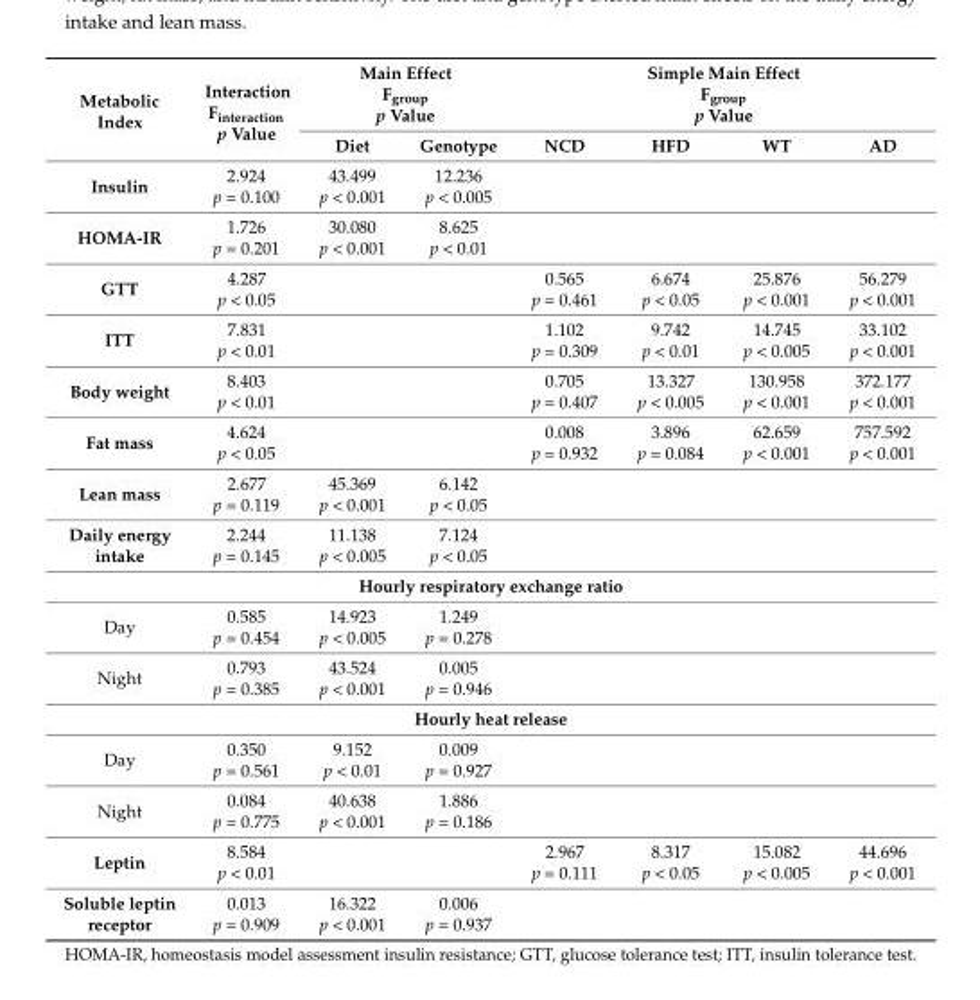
<table><thead><tr><td rowspan="2">Metabolic Index</td><td rowspan="2">Interaction F<sub>interaction</sub> p Value</td><td colspan="2">Main Effect F<sub>group</sub> p Value</td><td colspan="4">Simple Main Effect F<sub>group</sub> p Value</td></tr><tr><td>Diet</td><td>Genotype</td><td>NCD</td><td>HFD</td><td>WT</td><td>AD</td></tr></thead><tbody><tr><td>Insulin</td><td>2.924 p = 0.100</td><td>43.499 p &lt; 0.001</td><td>12.236 p &lt; 0.005</td><td></td><td></td><td></td><td></td></tr><tr><td>HOMA-IR</td><td>1.726 p = 0.201</td><td>30.080 p &lt; 0.001</td><td>8.625 p &lt; 0.01</td><td></td><td></td><td></td><td></td></tr><tr><td>GTT</td><td>4.287 p &lt; 0.05</td><td></td><td></td><td>0.565 p = 0.461</td><td>6.674 p &lt; 0.05</td><td>25.876 p &lt; 0.001</td><td>56.279 p &lt; 0.001</td></tr><tr><td>ITT</td><td>7.831 p &lt; 0.01</td><td></td><td></td><td>1.102 p = 0.309</td><td>9.742 p &lt; 0.01</td><td>14.745 p &lt; 0.005</td><td>33.102 p &lt; 0.001</td></tr><tr><td>Body weight</td><td>8.403 p &lt; 0.01</td><td></td><td></td><td>0.705 p = 0.407</td><td>13.327 p &lt; 0.005</td><td>130.958 p &lt; 0.001</td><td>372.177 p &lt; 0.001</td></tr><tr><td>Fat mass</td><td>4.624 p &lt; 0.05</td><td></td><td></td><td>0.008 p = 0.932</td><td>3.896 p = 0.084</td><td>62.659 p &lt; 0.001</td><td>757.592 p &lt; 0.001</td></tr><tr><td>Lean mass</td><td>2.677 p = 0.119</td><td>45.369 p &lt; 0.001</td><td>6.142 p &lt; 0.05</td><td></td><td></td><td></td><td></td></tr><tr><td>Daily energy intake</td><td>2.244 p = 0.145</td><td>11.138 p &lt; 0.005</td><td>7.124 p &lt; 0.05</td><td></td><td></td><td></td><td></td></tr><tr><td colspan="8">Hourly respiratory exchange ratio</td></tr><tr><td>Day</td><td>0.585 p = 0.454</td><td>14.923 p &lt; 0.005</td><td>1.249 p = 0.278</td><td></td><td></td><td></td><td></td></tr><tr><td>Night</td><td>0.793 p = 0.385</td><td>43.524 p &lt; 0.001</td><td>0.005 p = 0.946</td><td></td><td></td><td></td><td></td></tr><tr><td colspan="8">Hourly heat release</td></tr><tr><td>Day</td><td>0.350 p = 0.561</td><td>9.152 p &lt; 0.01</td><td>0.009 p = 0.927</td><td></td><td></td><td></td><td></td></tr><tr><td>Night</td><td>0.084 p = 0.775</td><td>40.638 p &lt; 0.001</td><td>1.886 p = 0.186</td><td></td><td></td><td></td><td></td></tr><tr><td>Leptin</td><td>8.584 p &lt; 0.01</td><td></td><td></td><td>2.967 p = 0.111</td><td>8.317 p &lt; 0.05</td><td>15.082 p &lt; 0.005</td><td>44.696 p &lt; 0.001</td></tr><tr><td>Soluble leptin receptor</td><td>0.013 p = 0.909</td><td>16.322 p &lt; 0.001</td><td>0.006 p = 0.937</td><td></td><td></td><td></td><td></td></tr></tbody></table>